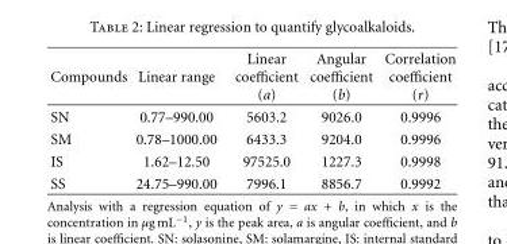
<table><thead><tr><td>Compounds</td><td>Linear range</td><td>Linear coefficient (a)</td><td>Angular coefficient (b)</td><td>Correlation coefficient (r)</td></tr></thead><tbody><tr><td>SN</td><td>0.77–990.00</td><td>5603.2</td><td>9026.0</td><td>0.9996</td></tr><tr><td>SM</td><td>0.78–1000.00</td><td>6433.3</td><td>9204.0</td><td>0.9996</td></tr><tr><td>IS</td><td>1.62–12.50</td><td>97525.0</td><td>1227.3</td><td>0.9998</td></tr><tr><td>SS</td><td>24.75–990.00</td><td>7996.1</td><td>8856.7</td><td>0.9992</td></tr></tbody></table>